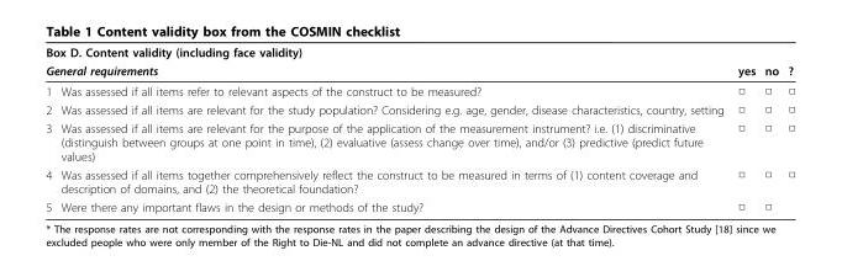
<table><thead><tr><td colspan="5">Box D. Content validity (including face validity)</td></tr><tr><td colspan="2">General requirements</td><td rowspan="2">yes □</td><td rowspan="2">no □</td><td rowspan="2">? □</td></tr><tr><td>1</td><td>Was assessed if all items refer to relevant aspects of the construct to be measured?</td></tr></thead><tbody><tr><td>2</td><td>Was assessed if all items are relevant for the study population? Considering e.g. age, gender, disease characteristics, country, setting</td><td>□</td><td>□</td><td>□</td></tr><tr><td>3</td><td>Was assessed if all items are relevant for the purpose of the application of the measurement instrument? i.e. (1) discriminative (distinguish between groups at one point in time), (2) evaluative (assess change over time), and/or (3) predictive (predict future values)</td><td>□</td><td>□</td><td>□</td></tr><tr><td>4</td><td>Was assessed if all items together comprehensively reflect the construct to be measured in terms of (1) content coverage and description of domains, and (2) the theoretical foundation?</td><td>□</td><td>□</td><td>□</td></tr><tr><td>5</td><td>Were there any important flaws in the design or methods of the study?</td><td>□</td><td>□</td><td></td></tr></tbody></table>